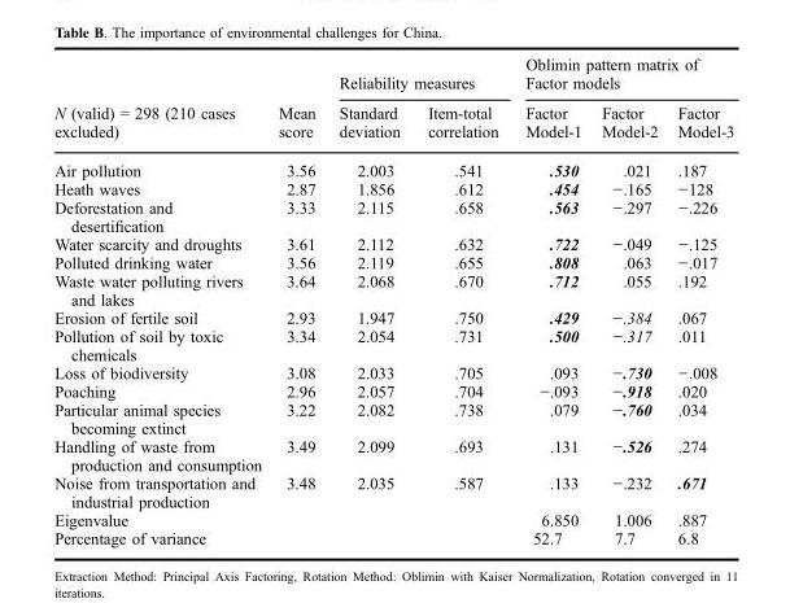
<table><thead><tr><td rowspan="2">N (valid) = 298 (210 cases excluded)</td><td rowspan="2">Mean score</td><td colspan="2">Reliability measures</td><td colspan="3">Oblimin pattern matrix of Factor models</td></tr><tr><td>Standard deviation</td><td>Item-total correlation</td><td>Factor Model-1</td><td>Factor Model-2</td><td>Factor Model-3</td></tr></thead><tbody><tr><td>Air pollution</td><td>3.56</td><td>2.003</td><td>.541</td><td>.530</td><td>.021</td><td>.187</td></tr><tr><td>Heath waves</td><td>2.87</td><td>1.856</td><td>.612</td><td>.454</td><td>−.165</td><td>−128</td></tr><tr><td>Deforestation and desertification</td><td>3.33</td><td>2.115</td><td>.658</td><td>.563</td><td>−.297</td><td>−.226</td></tr><tr><td>Water scarcity and droughts</td><td>3.61</td><td>2.112</td><td>.632</td><td>.722</td><td>−.049</td><td>−.125</td></tr><tr><td>Polluted drinking water</td><td>3.56</td><td>2.119</td><td>.655</td><td>.808</td><td>.063</td><td>−.017</td></tr><tr><td>Waste water polluting rivers and lakes</td><td>3.64</td><td>2.068</td><td>.670</td><td>.712</td><td>.055</td><td>.192</td></tr><tr><td>Erosion of fertile soil</td><td>2.93</td><td>1.947</td><td>.750</td><td>.429</td><td>−.384</td><td>.067</td></tr><tr><td>Pollution of soil by toxic chemicals</td><td>3.34</td><td>2.054</td><td>.731</td><td>.500</td><td>−.317</td><td>.011</td></tr><tr><td>Loss of biodiversity</td><td>3.08</td><td>2.033</td><td>.705</td><td>.093</td><td>−.730</td><td>−.008</td></tr><tr><td>Poaching</td><td>2.96</td><td>2.057</td><td>.704</td><td>−.093</td><td>−.918</td><td>.020</td></tr><tr><td>Particular animal species becoming extinct</td><td>3.22</td><td>2.082</td><td>.738</td><td>.079</td><td>−.760</td><td>.034</td></tr><tr><td>Handling of waste from production and consumption</td><td>3.49</td><td>2.099</td><td>.693</td><td>.131</td><td>−.526</td><td>.274</td></tr><tr><td>Noise from transportation and industrial production</td><td>3.48</td><td>2.035</td><td>.587</td><td>.133</td><td>−.232</td><td>.671</td></tr><tr><td>Eigenvalue</td><td></td><td></td><td></td><td>6.850</td><td>1.006</td><td>.887</td></tr><tr><td>Percentage of variance</td><td></td><td></td><td></td><td>52.7</td><td>7.7</td><td>6.8</td></tr></tbody></table>